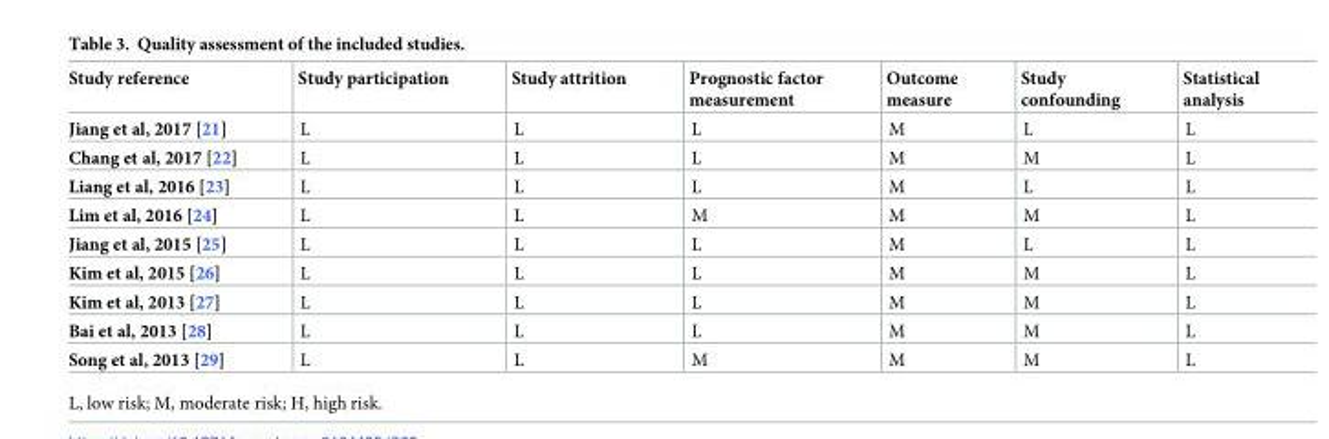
<table><thead><tr><td>Study reference</td><td>Study participation</td><td>Study attrition</td><td>Prognostic factor measurement</td><td>Outcome measure</td><td>Study confounding</td><td>Statistical analysis</td></tr></thead><tbody><tr><td>Jiang et al, 2017 [21]</td><td>L</td><td>L</td><td>L</td><td>M</td><td>L</td><td>L</td></tr><tr><td>Chang et al, 2017 [22]</td><td>L</td><td>L</td><td>L</td><td>M</td><td>M</td><td>L</td></tr><tr><td>Liang et al, 2016 [23]</td><td>L</td><td>L</td><td>L</td><td>M</td><td>L</td><td>L</td></tr><tr><td>Lim et al, 2016 [24]</td><td>L</td><td>L</td><td>M</td><td>M</td><td>M</td><td>L</td></tr><tr><td>Jiang et al, 2015 [25]</td><td>L</td><td>L</td><td>L</td><td>M</td><td>L</td><td>L</td></tr><tr><td>Kim et al, 2015 [26]</td><td>L</td><td>L</td><td>L</td><td>M</td><td>M</td><td>L</td></tr><tr><td>Kim et al, 2013 [27]</td><td>L</td><td>L</td><td>L</td><td>M</td><td>M</td><td>L</td></tr><tr><td>Bai et al, 2013 [28]</td><td>L</td><td>L</td><td>L</td><td>M</td><td>M</td><td>L</td></tr><tr><td>Song et al, 2013 [29]</td><td>L</td><td>L</td><td>M</td><td>M</td><td>M</td><td>L</td></tr></tbody></table>